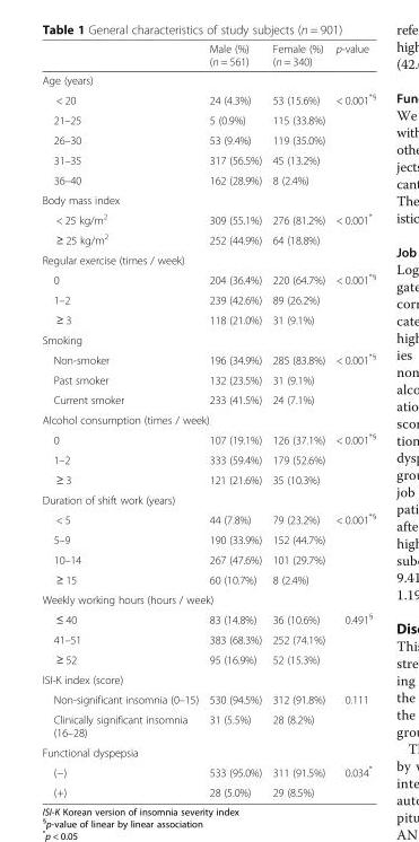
<table><thead><tr><td></td><td>Male (%) (n = 561)</td><td>Female (%) (n = 340)</td><td>p-value</td></tr></thead><tbody><tr><td colspan="4">Age (years)</td></tr><tr><td>&lt; 20</td><td>24 (4.3%)</td><td>53 (15.6%)</td><td>&lt; 0.001<sup>*§</sup></td></tr><tr><td>21–25</td><td>5 (0.9%)</td><td>115 (33.8%)</td><td></td></tr><tr><td>26–30</td><td>53 (9.4%)</td><td>119 (35.0%)</td><td></td></tr><tr><td>31–35</td><td>317 (56.5%)</td><td>45 (13.2%)</td><td></td></tr><tr><td>36–40</td><td>162 (28.9%)</td><td>8 (2.4%)</td><td></td></tr><tr><td colspan="4">Body mass index</td></tr><tr><td>&lt; 25 kg/m<sup>2</sup></td><td>309 (55.1%)</td><td>276 (81.2%)</td><td>&lt; 0.001*</td></tr><tr><td>≥ 25 kg/m<sup>2</sup></td><td>252 (44.9%)</td><td>64 (18.8%)</td><td></td></tr><tr><td colspan="4">Regular exercise (times / week)</td></tr><tr><td>0</td><td>204 (36.4%)</td><td>220 (64.7%)</td><td>&lt; 0.001<sup>*§</sup></td></tr><tr><td>1–2</td><td>239 (42.6%)</td><td>89 (26.2%)</td><td></td></tr><tr><td>≥ 3</td><td>118 (21.0%)</td><td>31 (9.1%)</td><td></td></tr><tr><td colspan="4">Smoking</td></tr><tr><td>Non-smoker</td><td>196 (34.9%)</td><td>285 (83.8%)</td><td>&lt; 0.001<sup>*§</sup></td></tr><tr><td>Past smoker</td><td>132 (23.5%)</td><td>31 (9.1%)</td><td></td></tr><tr><td>Current smoker</td><td>233 (41.5%)</td><td>24 (7.1%)</td><td></td></tr><tr><td colspan="4">Alcohol consumption (times / week)</td></tr><tr><td>0</td><td>107 (19.1%)</td><td>126 (37.1%)</td><td>&lt; 0.001<sup>*§</sup></td></tr><tr><td>1–2</td><td>333 (59.4%)</td><td>179 (52.6%)</td><td></td></tr><tr><td>≥ 3</td><td>121 (21.6%)</td><td>35 (10.3%)</td><td></td></tr><tr><td colspan="4">Duration of shift work (years)</td></tr><tr><td>&lt; 5</td><td>44 (7.8%)</td><td>79 (23.2%)</td><td>&lt; 0.001<sup>*§</sup></td></tr><tr><td>5–9</td><td>190 (33.9%)</td><td>152 (44.7%)</td><td></td></tr><tr><td>10–14</td><td>267 (47.6%)</td><td>101 (29.7%)</td><td></td></tr><tr><td>≥ 15</td><td>60 (10.7%)</td><td>8 (2.4%)</td><td></td></tr><tr><td colspan="4">Weekly working hours (hours / week)</td></tr><tr><td>≤ 40</td><td>83 (14.8%)</td><td>36 (10.6%)</td><td>0.491<sup>§</sup></td></tr><tr><td>41–51</td><td>383 (68.3%)</td><td>252 (74.1%)</td><td></td></tr><tr><td>≥ 52</td><td>95 (16.9%)</td><td>52 (15.3%)</td><td></td></tr><tr><td colspan="4">ISI-K index (score)</td></tr><tr><td>Non-significant insomnia (0–15)</td><td>530 (94.5%)</td><td>312 (91.8%)</td><td>0.111</td></tr><tr><td>Clinically significant insomnia (16–28)</td><td>31 (5.5%)</td><td>28 (8.2%)</td><td></td></tr><tr><td colspan="4">Functional dyspepsia</td></tr><tr><td>(−)</td><td>533 (95.0%)</td><td>311 (91.5%)</td><td>0.034*</td></tr><tr><td>(+)</td><td>28 (5.0%)</td><td>29 (8.5%)</td><td></td></tr></tbody></table>